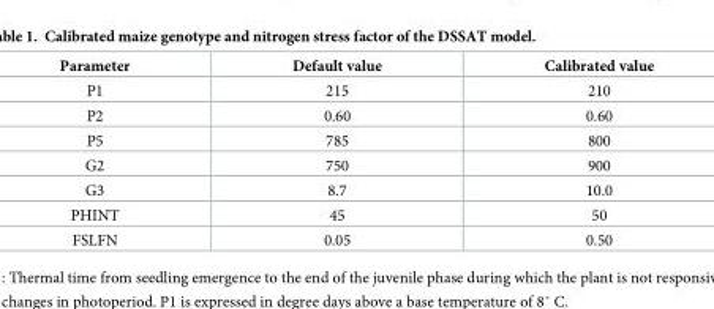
<table><thead><tr><td>Parameter</td><td>Default value</td><td>Calibrated value</td></tr></thead><tbody><tr><td>P1</td><td>215</td><td>210</td></tr><tr><td>P2</td><td>0.60</td><td>0.60</td></tr><tr><td>P5</td><td>785</td><td>800</td></tr><tr><td>G2</td><td>750</td><td>900</td></tr><tr><td>G3</td><td>8.7</td><td>10.0</td></tr><tr><td>PHINT</td><td>45</td><td>50</td></tr><tr><td>FSLFN</td><td>0.05</td><td>0.50</td></tr></tbody></table>